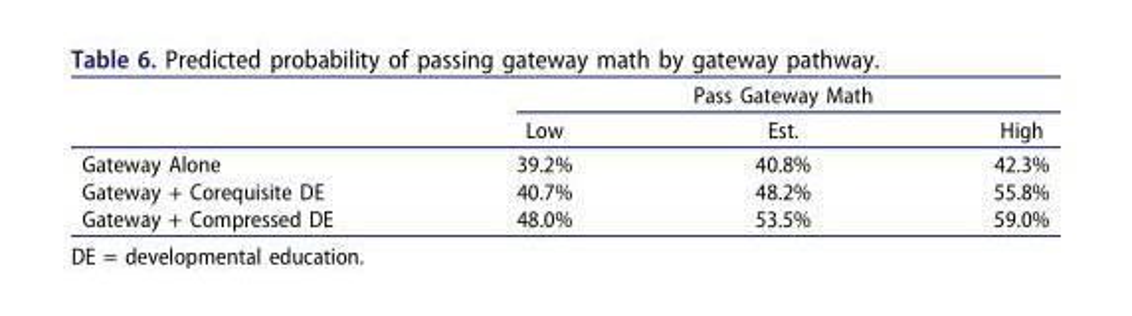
<table><thead><tr><td rowspan="2"></td><td colspan="3">Pass Gateway Math</td></tr><tr><td>Low</td><td>Est.</td><td>High</td></tr></thead><tbody><tr><td>Gateway Alone</td><td>39.2%</td><td>40.8%</td><td>42.3%</td></tr><tr><td>Gateway + Corequisite DE</td><td>40.7%</td><td>48.2%</td><td>55.8%</td></tr><tr><td>Gateway + Compressed DE</td><td>48.0%</td><td>53.5%</td><td>59.0%</td></tr></tbody></table>